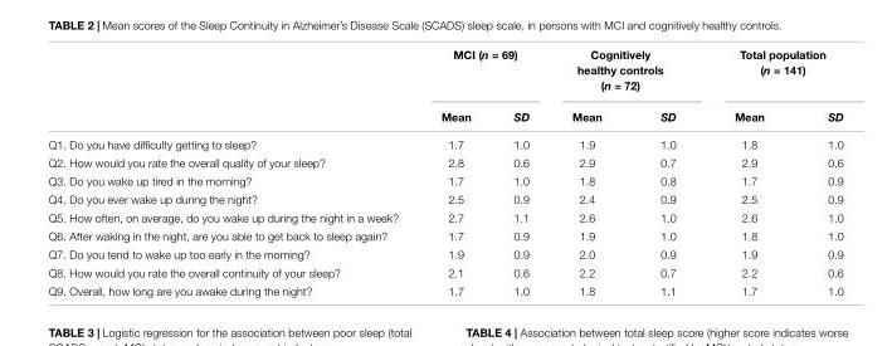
<table><thead><tr><td rowspan="2"></td><td colspan="2">MCI (n = 69)</td><td colspan="2">Cognitively healthy controls (n = 72)</td><td colspan="2">Total population (n = 141)</td></tr><tr><td>Mean</td><td>SD</td><td>Mean</td><td>SD</td><td>Mean</td><td>SD</td></tr></thead><tbody><tr><td>Q1. Do you have difficulty getting to sleep?</td><td>1.7</td><td>1.0</td><td>1.9</td><td>1.0</td><td>1.8</td><td>1.0</td></tr><tr><td>Q2. How would you rate the overall quality of your sleep?</td><td>2.8</td><td>0.6</td><td>2.9</td><td>0.7</td><td>2.9</td><td>0.6</td></tr><tr><td>Q3. Do you wake up tired in the morning?</td><td>1.7</td><td>1.0</td><td>1.8</td><td>0.8</td><td>1.7</td><td>0.9</td></tr><tr><td>Q4. Do you ever wake up during the night?</td><td>2.5</td><td>0.9</td><td>2.4</td><td>0.9</td><td>2.5</td><td>0.9</td></tr><tr><td>Q5. How often, on average, do you wake up during the night in a week?</td><td>2.7</td><td>1.1</td><td>2.6</td><td>1.0</td><td>2.6</td><td>1.0</td></tr><tr><td>Q6. After waking in the night, are you able to get back to sleep again?</td><td>1.7</td><td>0.9</td><td>1.9</td><td>1.0</td><td>1.8</td><td>1.0</td></tr><tr><td>Q7. Do you tend to wake up too early in the morning?</td><td>1.9</td><td>0.9</td><td>2.0</td><td>0.9</td><td>1.9</td><td>0.9</td></tr><tr><td>Q8. How would you rate the overall continuity of your sleep?</td><td>2.1</td><td>0.6</td><td>2.2</td><td>0.7</td><td>2.2</td><td>0.6</td></tr><tr><td>Q9. Overall, how long are you awake during the night?</td><td>1.7</td><td>1.0</td><td>1.8</td><td>1.1</td><td>1.7</td><td>1.0</td></tr></tbody></table>